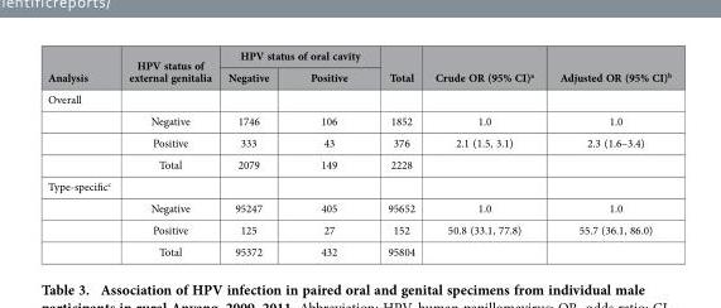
<table><thead><tr><td rowspan="2">Analysis</td><td rowspan="2">HPV status of external genitalia</td><td colspan="2">HPV status of oral cavity</td><td rowspan="2">Total</td><td rowspan="2">Crude OR (95% CI)<sup>a</sup></td><td rowspan="2">Adjusted OR (95% CI)<sup>b</sup></td></tr><tr><td>Negative</td><td>Positive</td></tr></thead><tbody><tr><td colspan="7">Overall</td></tr><tr><td></td><td>Negative</td><td>1746</td><td>106</td><td>1852</td><td>1.0</td><td>1.0</td></tr><tr><td></td><td>Positive</td><td>333</td><td>43</td><td>376</td><td>2.1 (1.5, 3.1)</td><td>2.3 (1.6–3.4)</td></tr><tr><td></td><td>Total</td><td>2079</td><td>149</td><td>2228</td><td></td><td></td></tr><tr><td colspan="7">Type-specific<sup>c</sup></td></tr><tr><td></td><td>Negative</td><td>95247</td><td>405</td><td>95652</td><td>1.0</td><td>1.0</td></tr><tr><td></td><td>Positive</td><td>125</td><td>27</td><td>152</td><td>50.8 (33.1, 77.8)</td><td>55.7 (36.1, 86.0)</td></tr><tr><td></td><td>Total</td><td>95372</td><td>432</td><td>95804</td><td></td><td></td></tr></tbody></table>